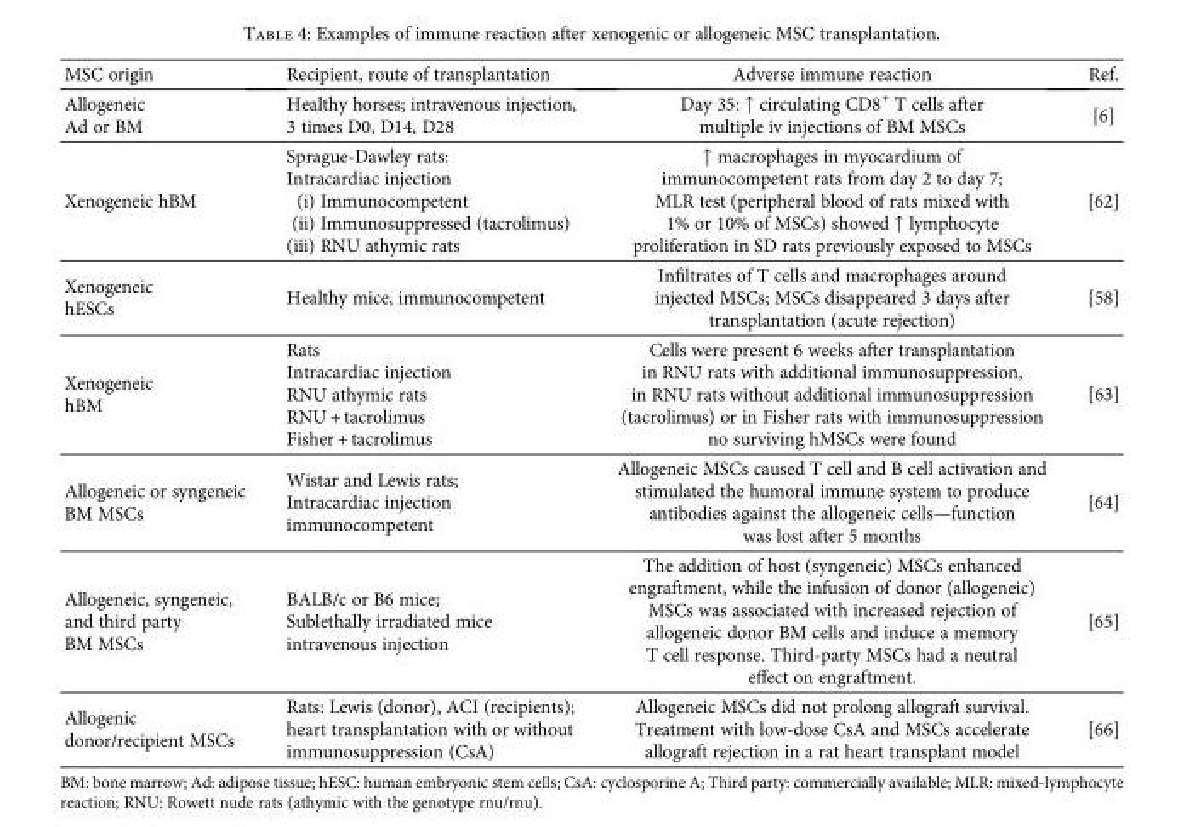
<table><thead><tr><td>MSC origin</td><td>Recipient, route of transplantation</td><td>Adverse immune reaction</td><td>Ref.</td></tr></thead><tbody><tr><td>Allogeneic Ad or BM</td><td>Healthy horses; intravenous injection, 3 times D0, D14, D28</td><td>Day 35: ↑ circulating CD8<sup>+</sup> T cells after multiple iv injections of BM MSCs</td><td>[6]</td></tr><tr><td>Xenogeneic hBM</td><td>Sprague-Dawley rats: Intracardiac injection (i) Immunocompetent (ii) Immunosuppressed (tacrolimus) (iii) RNU athymic rats</td><td>↑ macrophages in myocardium of immunocompetent rats from day 2 to day 7; MLR test (peripheral blood of rats mixed with 1% or 10% of MSCs) showed ↑ lymphocyte proliferation in SD rats previously exposed to MSCs</td><td>[62]</td></tr><tr><td>Xenogeneic hESCs</td><td>Healthy mice, immunocompetent</td><td>Infiltrates of T cells and macrophages around injected MSCs; MSCs disappeared 3 days after transplantation (acute rejection)</td><td>[58]</td></tr><tr><td>Xenogeneic hBM</td><td>Rats Intracardiac injection RNU athymic rats RNU + tacrolimus Fisher + tacrolimus</td><td>Cells were present 6 weeks after transplantation in RNU rats with additional immunosuppression, in RNU rats without additional immunosuppression (tacrolimus) or in Fisher rats with immunosuppression no surviving hMSCs were found</td><td>[63]</td></tr><tr><td>Allogeneic or syngeneic BM MSCs</td><td>Wistar and Lewis rats; Intracardiac injection immunocompetent</td><td>Allogeneic MSCs caused T cell and B cell activation and stimulated the humoral immune system to produce antibodies against the allogeneic cells—function was lost after 5 months</td><td>[64]</td></tr><tr><td>Allogeneic, syngeneic, and third party BM MSCs</td><td>BALB/c or B6 mice; Sublethally irradiated mice intravenous injection</td><td>The addition of host (syngeneic) MSCs enhanced engraftment, while the infusion of donor (allogeneic) MSCs was associated with increased rejection of allogeneic donor BM cells and induce a memory T cell response. Third-party MSCs had a neutral effect on engraftment.</td><td>[65]</td></tr><tr><td>Allogenic donor/recipient MSCs</td><td>Rats: Lewis (donor), ACI (recipients); heart transplantation with or without immunosuppression (CsA)</td><td>Allogeneic MSCs did not prolong allograft survival. Treatment with low-dose CsA and MSCs accelerate allograft rejection in a rat heart transplant model</td><td>[66]</td></tr></tbody></table>